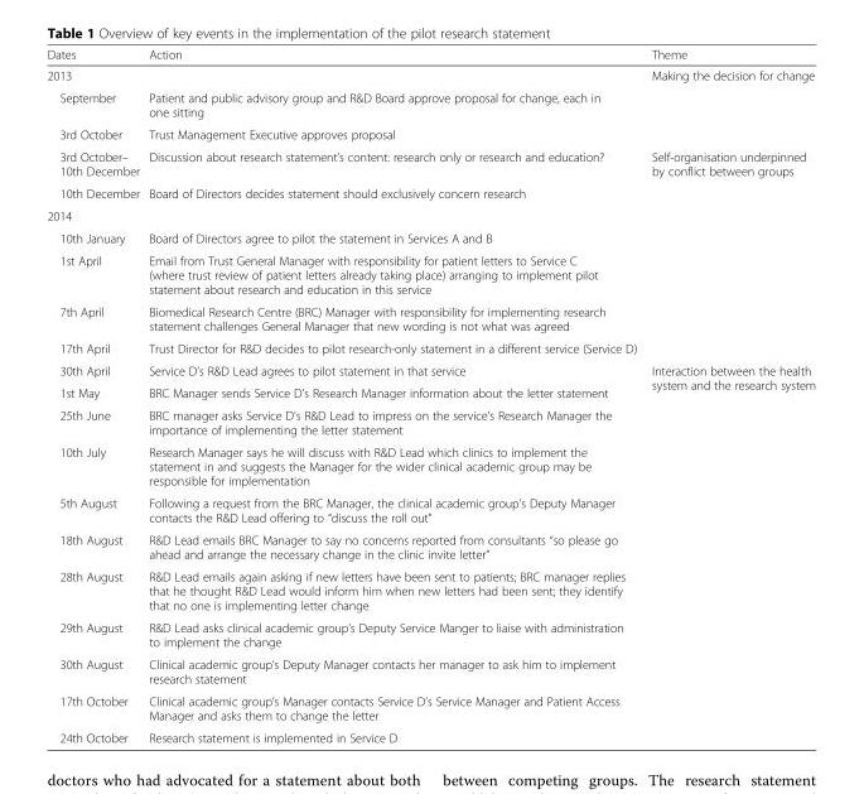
<table><thead><tr><td>Dates</td><td>Action</td><td>Theme</td></tr></thead><tbody><tr><td colspan="2">2013</td><td rowspan="3">Making the decision for change</td></tr><tr><td>September</td><td>Patient and public advisory group and R&amp;D Board approve proposal for change, each in one sitting</td></tr><tr><td>3rd October</td><td>Trust Management Executive approves proposal</td></tr><tr><td>3rd October– 10th December</td><td>Discussion about research statement’s content: research only or research and education?</td><td rowspan="7">Self-organisation underpinned by conflict between groups</td></tr><tr><td>10th December</td><td>Board of Directors decides statement should exclusively concern research</td></tr><tr><td colspan="2">2014</td></tr><tr><td>10th January</td><td>Board of Directors agree to pilot the statement in Services A and B</td></tr><tr><td>1st April</td><td>Email from Trust General Manager with responsibility for patient letters to Service C (where trust review of patient letters already taking place) arranging to implement pilot statement about research and education in this service</td></tr><tr><td>7th April</td><td>Biomedical Research Centre (BRC) Manager with responsibility for implementing research statement challenges General Manager that new wording is not what was agreed</td></tr><tr><td>17th April</td><td>Trust Director for R&amp;D decides to pilot research-only statement in a different service (Service D)</td></tr><tr><td>30th April</td><td>Service D’s R&amp;D Lead agrees to pilot statement in that service</td><td rowspan="11">Interaction between the health system and the research system</td></tr><tr><td>1st May</td><td>BRC Manager sends Service D’s Research Manager information about the letter statement</td></tr><tr><td>25th June</td><td>BRC manager asks Service D’s R&amp;D Lead to impress on the service’s Research Manager the importance of implementing the letter statement</td></tr><tr><td>10th July</td><td>Research Manager says he will discuss with R&amp;D Lead which clinics to implement the statement in and suggests the Manager for the wider clinical academic group may be responsible for implementation</td></tr><tr><td>5th August</td><td>Following a request from the BRC Manager, the clinical academic group’s Deputy Manager contacts the R&amp;D Lead offering to “discuss the roll out”</td></tr><tr><td>18th August</td><td>R&amp;D Lead emails BRC Manager to say no concerns reported from consultants “so please go ahead and arrange the necessary change in the clinic invite letter”</td></tr><tr><td>28th August</td><td>R&amp;D Lead emails again asking if new letters have been sent to patients; BRC manager replies that he thought R&amp;D Lead would inform him when new letters had been sent; they identify that no one is implementing letter change</td></tr><tr><td>29th August</td><td>R&amp;D Lead asks clinical academic group’s Deputy Service Manger to liaise with administration to implement the change</td></tr><tr><td>30th August</td><td>Clinical academic group’s Deputy Manager contacts her manager to ask him to implement research statement</td></tr><tr><td>17th October</td><td>Clinical academic group’s Manager contacts Service D’s Service Manager and Patient Access Manager and asks them to change the letter</td></tr><tr><td>24th October</td><td>Research statement is implemented in Service D</td></tr></tbody></table>